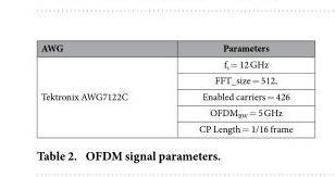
<table><thead><tr><td>AWG</td><td>Parameters</td></tr></thead><tbody><tr><td rowspan="5">Tektronix AWG7122C</td><td>f<sub>s</sub> = 12 GHz</td></tr><tr><td>FFT_size = 512,</td></tr><tr><td>Enabled carriers = 426</td></tr><tr><td>OFDM<sub>BW</sub> = 5 GHz</td></tr><tr><td>CP Length = 1/16 frame</td></tr></tbody></table>